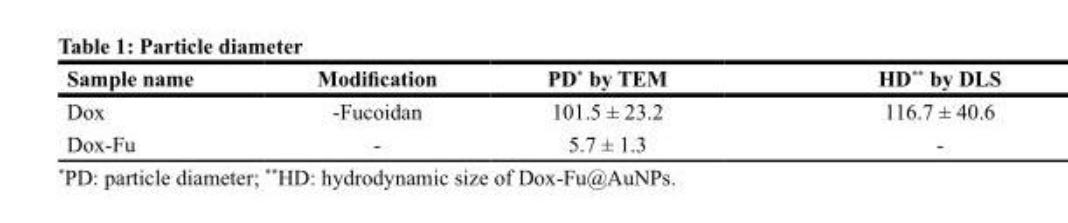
<table><thead><tr><td>Sample name</td><td>Modification</td><td>PD* by TEM</td><td>HD** by DLS</td></tr></thead><tbody><tr><td>Dox</td><td>-Fucoidan</td><td>101.5 ± 23.2</td><td>116.7 ± 40.6</td></tr><tr><td>Dox-Fu</td><td>-</td><td>5.7 ± 1.3</td><td>-</td></tr></tbody></table>